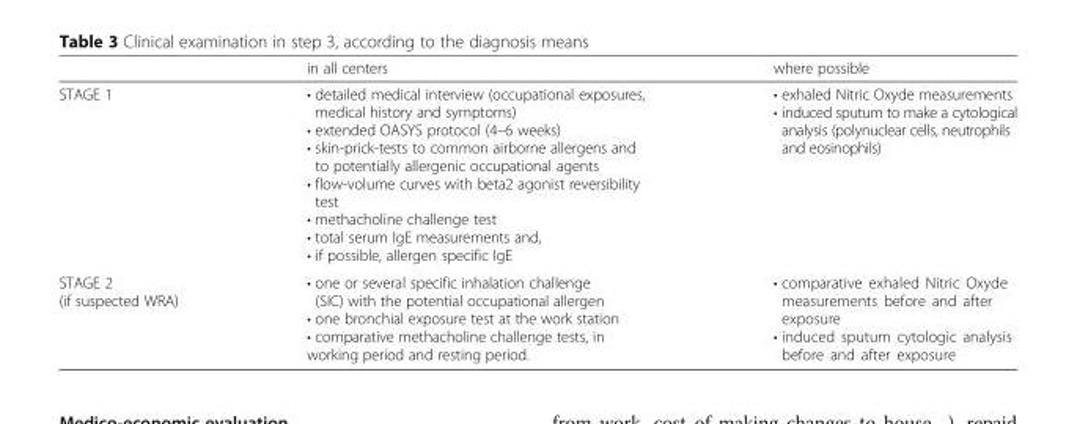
<table><thead><tr><td></td><td>in all centers</td><td>where possible</td></tr></thead><tbody><tr><td>STAGE 1</td><td>• detailed medical interview (occupational exposures, medical history and symptoms) • extended OASYS protocol (4–6 weeks) • skin-prick-tests to common airborne allergens and to potentially allergenic occupational agents • flow-volume curves with beta2 agonist reversibility test • methacholine challenge test • total serum IgE measurements and, • if possible, allergen specific IgE</td><td>• exhaled Nitric Oxyde measurements • induced sputum to make a cytological analysis (polynuclear cells, neutrophils and eosinophils)</td></tr><tr><td>STAGE 2 (if suspected WRA)</td><td>• one or several specific inhalation challenge (SIC) with the potential occupational allergen • one bronchial exposure test at the work station • comparative methacholine challenge tests, in working period and resting period.</td><td>• comparative exhaled Nitric Oxyde measurements before and after exposure • induced sputum cytologic analysis before and after exposure</td></tr></tbody></table>